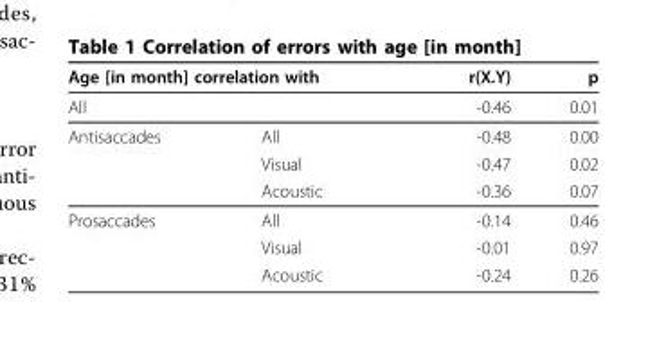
<table><thead><tr><td colspan="2">Age [in month] correlation with</td><td rowspan="2">r(X.Y) -0.46</td><td rowspan="2">p 0.01</td></tr><tr><td>All</td><td></td></tr></thead><tbody><tr><td rowspan="3">Antisaccades</td><td>All</td><td>-0.48</td><td>0.00</td></tr><tr><td>Visual</td><td>-0.47</td><td>0.02</td></tr><tr><td>Acoustic</td><td>-0.36</td><td>0.07</td></tr><tr><td rowspan="3">Prosaccades</td><td>All</td><td>-0.14</td><td>0.46</td></tr><tr><td>Visual</td><td>-0.01</td><td>0.97</td></tr><tr><td>Acoustic</td><td>-0.24</td><td>0.26</td></tr></tbody></table>